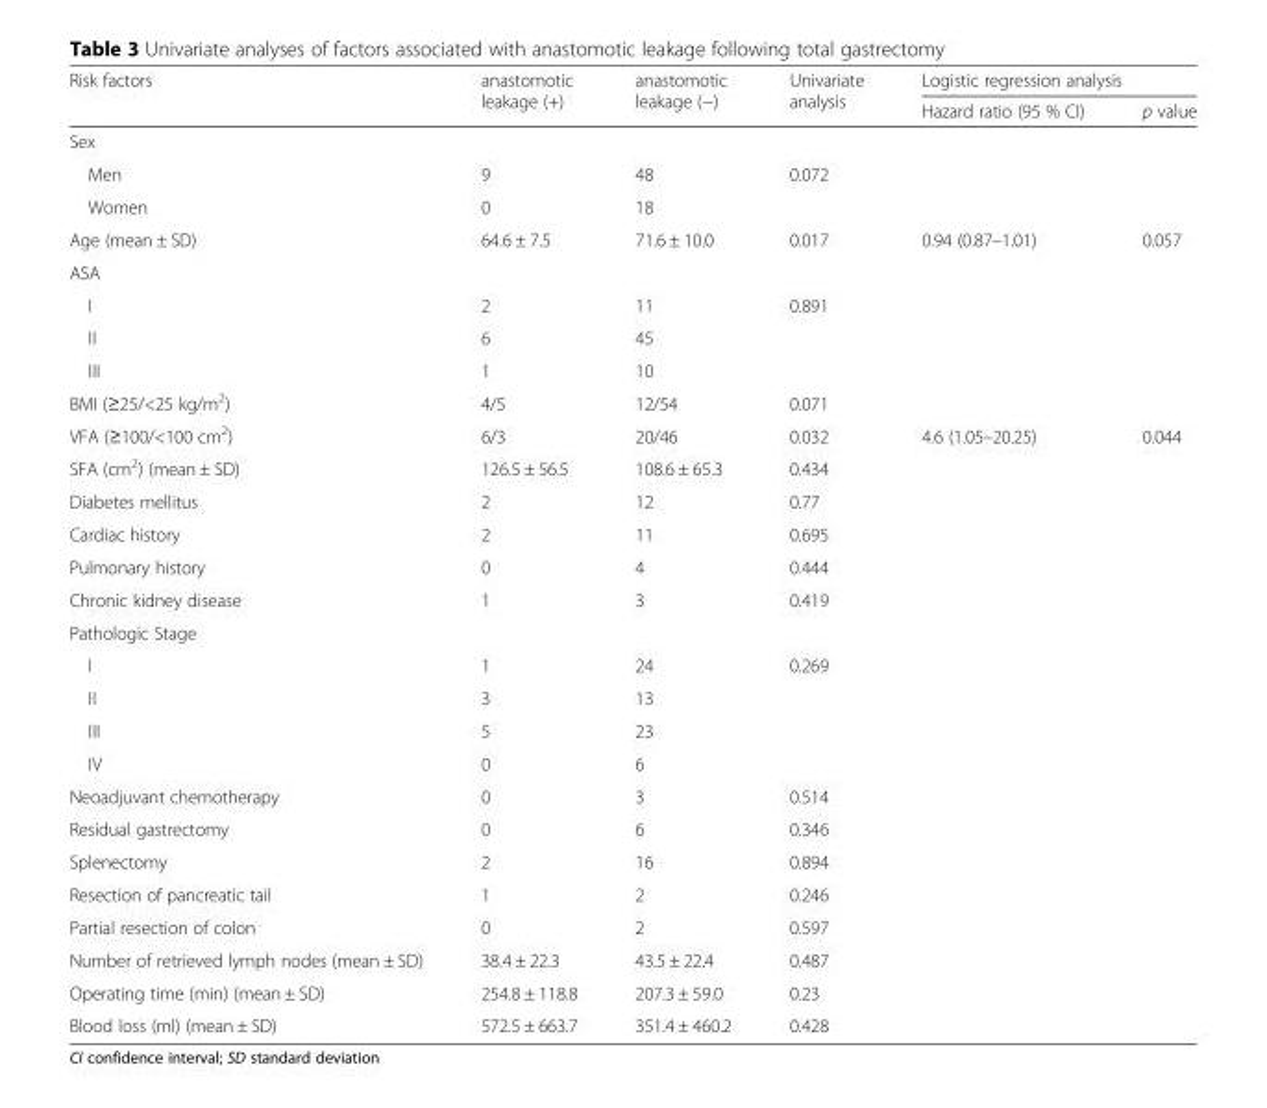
<table><thead><tr><td rowspan="2">Risk factors</td><td rowspan="2">anastomotic leakage (+)</td><td rowspan="2">anastomotic leakage (−)</td><td rowspan="2">Univariate analysis</td><td colspan="2">Logistic regression analysis</td></tr><tr><td>Hazard ratio (95 % CI)</td><td>p value</td></tr></thead><tbody><tr><td colspan="6">Sex</td></tr><tr><td>Men</td><td>9</td><td>48</td><td>0.072</td><td></td><td></td></tr><tr><td>Women</td><td>0</td><td>18</td><td></td><td></td><td></td></tr><tr><td>Age (mean ± SD)</td><td>64.6 ± 7.5</td><td>71.6 ± 10.0</td><td>0.017</td><td>0.94 (0.87–1.01)</td><td>0.057</td></tr><tr><td colspan="6">ASA</td></tr><tr><td>I</td><td>2</td><td>11</td><td>0.891</td><td></td><td></td></tr><tr><td>II</td><td>6</td><td>45</td><td></td><td></td><td></td></tr><tr><td>III</td><td>1</td><td>10</td><td></td><td></td><td></td></tr><tr><td>BMI (≥25/&lt;25 kg/m<sup>2</sup>)</td><td>4/5</td><td>12/54</td><td>0.071</td><td></td><td></td></tr><tr><td>VFA (≥100/&lt;100 cm<sup>2</sup>)</td><td>6/3</td><td>20/46</td><td>0.032</td><td>4.6 (1.05–20.25)</td><td>0.044</td></tr><tr><td>SFA (cm<sup>2</sup>) (mean ± SD)</td><td>126.5 ± 56.5</td><td>108.6 ± 65.3</td><td>0.434</td><td></td><td></td></tr><tr><td>Diabetes mellitus</td><td>2</td><td>12</td><td>0.77</td><td></td><td></td></tr><tr><td>Cardiac history</td><td>2</td><td>11</td><td>0.695</td><td></td><td></td></tr><tr><td>Pulmonary history</td><td>0</td><td>4</td><td>0.444</td><td></td><td></td></tr><tr><td>Chronic kidney disease</td><td>1</td><td>3</td><td>0.419</td><td></td><td></td></tr><tr><td colspan="6">Pathologic Stage</td></tr><tr><td>I</td><td>1</td><td>24</td><td>0.269</td><td></td><td></td></tr><tr><td>II</td><td>3</td><td>13</td><td></td><td></td><td></td></tr><tr><td>III</td><td>5</td><td>23</td><td></td><td></td><td></td></tr><tr><td>IV</td><td>0</td><td>6</td><td></td><td></td><td></td></tr><tr><td>Neoadjuvant chemotherapy</td><td>0</td><td>3</td><td>0.514</td><td></td><td></td></tr><tr><td>Residual gastrectomy</td><td>0</td><td>6</td><td>0.346</td><td></td><td></td></tr><tr><td>Splenectomy</td><td>2</td><td>16</td><td>0.894</td><td></td><td></td></tr><tr><td>Resection of pancreatic tail</td><td>1</td><td>2</td><td>0.246</td><td></td><td></td></tr><tr><td>Partial resection of colon</td><td>0</td><td>2</td><td>0.597</td><td></td><td></td></tr><tr><td>Number of retrieved lymph nodes (mean ± SD)</td><td>38.4 ± 22.3</td><td>43.5 ± 22.4</td><td>0.487</td><td></td><td></td></tr><tr><td>Operating time (min) (mean ± SD)</td><td>254.8 ± 118.8</td><td>207.3 ± 59.0</td><td>0.23</td><td></td><td></td></tr><tr><td>Blood loss (ml) (mean ± SD)</td><td>572.5 ± 663.7</td><td>351.4 ± 460.2</td><td>0.428</td><td></td><td></td></tr></tbody></table>